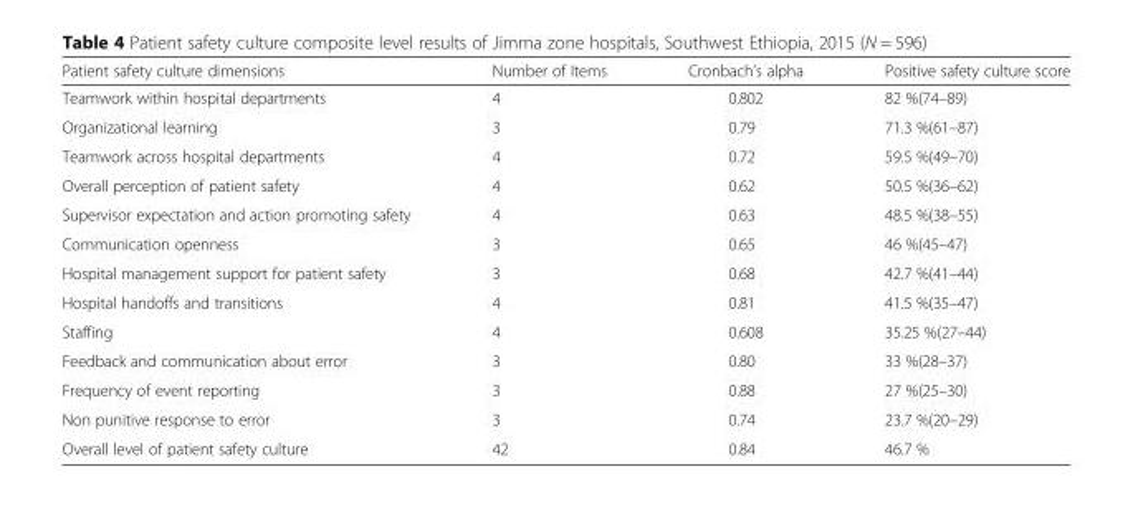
<table><thead><tr><td>Patient safety culture dimensions</td><td>Number of Items</td><td>Cronbach’s alpha</td><td>Positive safety culture score</td></tr></thead><tbody><tr><td>Teamwork within hospital departments</td><td>4</td><td>0.802</td><td>82 %(74–89)</td></tr><tr><td>Organizational learning</td><td>3</td><td>0.79</td><td>71.3 %(61–87)</td></tr><tr><td>Teamwork across hospital departments</td><td>4</td><td>0.72</td><td>59.5 %(49–70)</td></tr><tr><td>Overall perception of patient safety</td><td>4</td><td>0.62</td><td>50.5 %(36–62)</td></tr><tr><td>Supervisor expectation and action promoting safety</td><td>4</td><td>0.63</td><td>48.5 %(38–55)</td></tr><tr><td>Communication openness</td><td>3</td><td>0.65</td><td>46 %(45–47)</td></tr><tr><td>Hospital management support for patient safety</td><td>3</td><td>0.68</td><td>42.7 %(41–44)</td></tr><tr><td>Hospital handoffs and transitions</td><td>4</td><td>0.81</td><td>41.5 %(35–47)</td></tr><tr><td>Staffing</td><td>4</td><td>0.608</td><td>35.25 %(27–44)</td></tr><tr><td>Feedback and communication about error</td><td>3</td><td>0.80</td><td>33 %(28–37)</td></tr><tr><td>Frequency of event reporting</td><td>3</td><td>0.88</td><td>27 %(25–30)</td></tr><tr><td>Non punitive response to error</td><td>3</td><td>0.74</td><td>23.7 %(20–29)</td></tr><tr><td>Overall level of patient safety culture</td><td>42</td><td>0.84</td><td>46.7 %</td></tr></tbody></table>